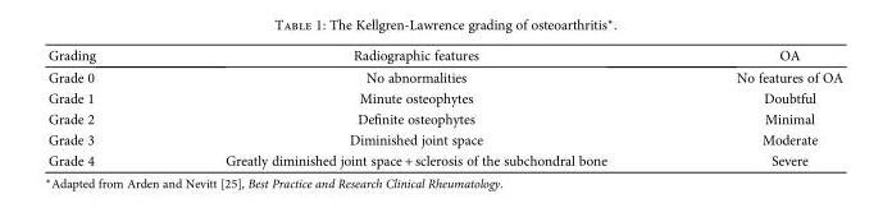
<table><thead><tr><td>Grading</td><td>Radiographic features</td><td>OA</td></tr></thead><tbody><tr><td>Grade 0</td><td>No abnormalities</td><td>No features of OA</td></tr><tr><td>Grade 1</td><td>Minute osteophytes</td><td>Doubtful</td></tr><tr><td>Grade 2</td><td>Definite osteophytes</td><td>Minimal</td></tr><tr><td>Grade 3</td><td>Diminished joint space</td><td>Moderate</td></tr><tr><td>Grade 4</td><td>Greatly diminished joint space + sclerosis of the subchondral bone</td><td>Severe</td></tr></tbody></table>